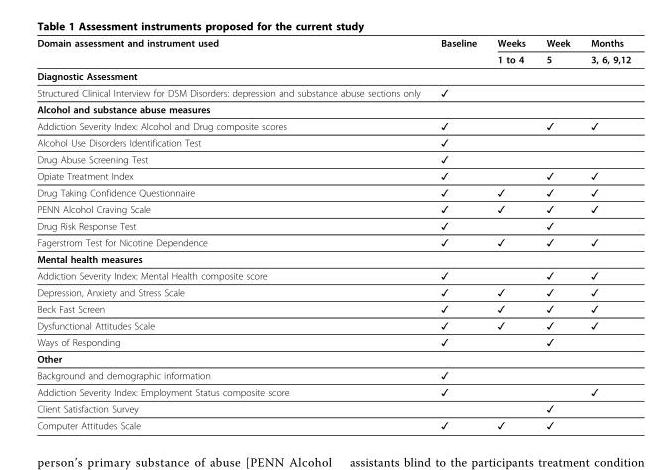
<table><thead><tr><td rowspan="2">Domain assessment and instrument used</td><td rowspan="2">Baseline</td><td rowspan="2">Weeks 1 to 4</td><td rowspan="2">Week 5</td><td rowspan="2">Months 3, 6, 9,12</td></tr><tr></tr></thead><tbody><tr><td colspan="5">Diagnostic Assessment</td></tr><tr><td>Structured Clinical Interview for DSM Disorders: depression and substance abuse sections only</td><td>✓</td><td></td><td></td><td></td></tr><tr><td colspan="5">Alcohol and substance abuse measures</td></tr><tr><td>Addiction Severity Index: Alcohol and Drug composite scores</td><td>✓</td><td></td><td>✓</td><td>✓</td></tr><tr><td>Alcohol Use Disorders Identification Test</td><td>✓</td><td></td><td></td><td></td></tr><tr><td>Drug Abuse Screening Test</td><td>✓</td><td></td><td></td><td></td></tr><tr><td>Opiate Treatment Index</td><td>✓</td><td></td><td>✓</td><td>✓</td></tr><tr><td>Drug Taking Confidence Questionnaire</td><td>✓</td><td>✓</td><td>✓</td><td>✓</td></tr><tr><td>PENN Alcohol Craving Scale</td><td>✓</td><td>✓</td><td>✓</td><td>✓</td></tr><tr><td>Drug Risk Response Test</td><td>✓</td><td></td><td>✓</td><td></td></tr><tr><td>Fagerstrom Test for Nicotine Dependence</td><td>✓</td><td>✓</td><td>✓</td><td>✓</td></tr><tr><td colspan="5">Mental health measures</td></tr><tr><td>Addiction Severity Index: Mental Health composite score</td><td>✓</td><td></td><td>✓</td><td>✓</td></tr><tr><td>Depression, Anxiety and Stress Scale</td><td>✓</td><td>✓</td><td>✓</td><td>✓</td></tr><tr><td>Beck Fast Screen</td><td>✓</td><td>✓</td><td>✓</td><td>✓</td></tr><tr><td>Dysfunctional Attitudes Scale</td><td>✓</td><td>✓</td><td>✓</td><td>✓</td></tr><tr><td>Ways of Responding</td><td>✓</td><td></td><td>✓</td><td></td></tr><tr><td colspan="5">Other</td></tr><tr><td>Background and demographic information</td><td>✓</td><td></td><td></td><td></td></tr><tr><td>Addiction Severity Index: Employment Status composite score</td><td>✓</td><td></td><td></td><td>✓</td></tr><tr><td>Client Satisfaction Survey</td><td></td><td></td><td>✓</td><td></td></tr><tr><td>Computer Attitudes Scale</td><td>✓</td><td>✓</td><td>✓</td><td></td></tr></tbody></table>